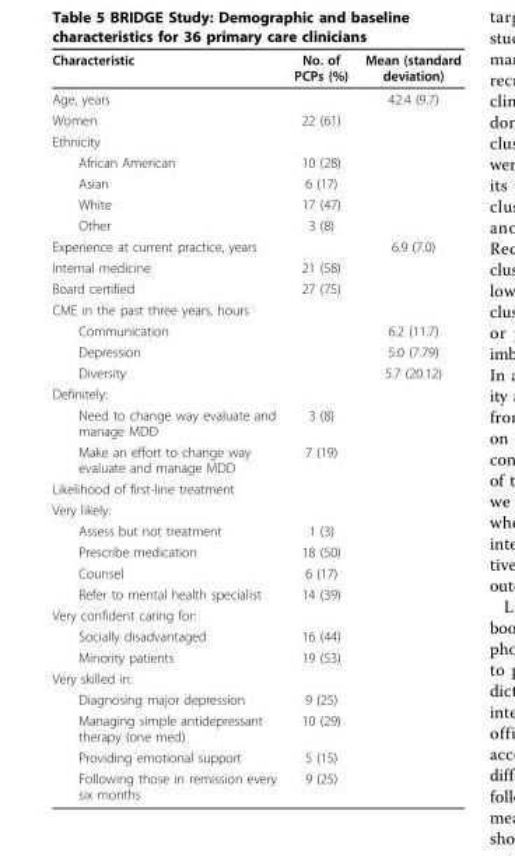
<table><thead><tr><td>Characteristic</td><td>No. of PCPs (%)</td><td>Mean (standard deviation)</td></tr></thead><tbody><tr><td>Age, years</td><td></td><td>42.4 (9.7)</td></tr><tr><td>Women</td><td>22 (61)</td><td></td></tr><tr><td colspan="3">Ethnicity</td></tr><tr><td>African American</td><td>10 (28)</td><td></td></tr><tr><td>Asian</td><td>6 (17)</td><td></td></tr><tr><td>White</td><td>17 (47)</td><td></td></tr><tr><td>Other</td><td>3 (8)</td><td></td></tr><tr><td>Experience at current practice, years</td><td></td><td>6.9 (7.0)</td></tr><tr><td>Internal medicine</td><td>21 (58)</td><td></td></tr><tr><td>Board certified</td><td>27 (75)</td><td></td></tr><tr><td colspan="3">CME in the past three years, hours</td></tr><tr><td>Communication</td><td></td><td>6.2 (11.7)</td></tr><tr><td>Depression</td><td></td><td>5.0 (7.79)</td></tr><tr><td>Diversity</td><td></td><td>5.7 (20.12)</td></tr><tr><td colspan="3">Definitely:</td></tr><tr><td>Need to change way evaluate and manage MDD</td><td>3 (8)</td><td></td></tr><tr><td>Make an effort to change way evaluate and manage MDD</td><td>7 (19)</td><td></td></tr><tr><td colspan="3">Likelihood of first-line treatment</td></tr><tr><td colspan="3">Very likely:</td></tr><tr><td>Assess but not treatment</td><td>1 (3)</td><td></td></tr><tr><td>Prescribe medication</td><td>18 (50)</td><td></td></tr><tr><td>Counsel</td><td>6 (17)</td><td></td></tr><tr><td>Refer to mental health specialist</td><td>14 (39)</td><td></td></tr><tr><td colspan="3">Very confident caring for:</td></tr><tr><td>Socially disadvantaged</td><td>16 (44)</td><td></td></tr><tr><td>Minority patients</td><td>19 (53)</td><td></td></tr><tr><td colspan="3">Very skilled in:</td></tr><tr><td>Diagnosing major depression</td><td>9 (25)</td><td></td></tr><tr><td>Managing simple antidepressant therapy (one med)</td><td>10 (29)</td><td></td></tr><tr><td>Providing emotional support</td><td>5 (15)</td><td></td></tr><tr><td>Following those in remission every six months</td><td>9 (25)</td><td></td></tr></tbody></table>